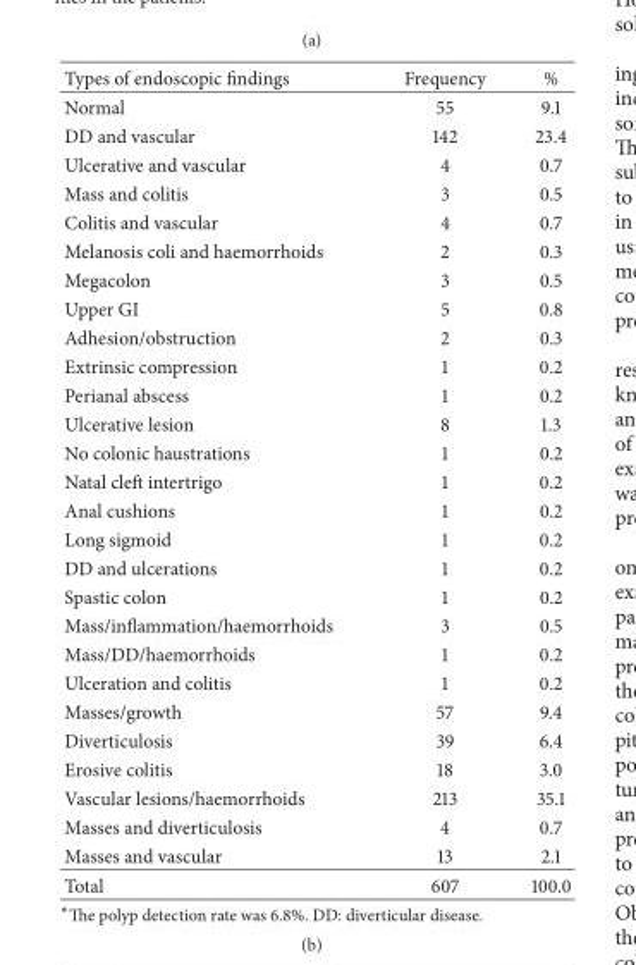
<table><thead><tr><td>Types of endoscopic findings</td><td>Frequency</td><td>%</td></tr></thead><tbody><tr><td>Normal</td><td>55</td><td>9.1</td></tr><tr><td>DD and vascular</td><td>142</td><td>23.4</td></tr><tr><td>Ulcerative and vascular</td><td>4</td><td>0.7</td></tr><tr><td>Mass and colitis</td><td>3</td><td>0.5</td></tr><tr><td>Colitis and vascular</td><td>4</td><td>0.7</td></tr><tr><td>Melanosis coli and haemorrhoids</td><td>2</td><td>0.3</td></tr><tr><td>Megacolon</td><td>3</td><td>0.5</td></tr><tr><td>Upper GI</td><td>5</td><td>0.8</td></tr><tr><td>Adhesion/obstruction</td><td>2</td><td>0.3</td></tr><tr><td>Extrinsic compression</td><td>1</td><td>0.2</td></tr><tr><td>Perianal abscess</td><td>1</td><td>0.2</td></tr><tr><td>Ulcerative lesion</td><td>8</td><td>1.3</td></tr><tr><td>No colonic haustrations</td><td>1</td><td>0.2</td></tr><tr><td>Natal cleft intertrigo</td><td>1</td><td>0.2</td></tr><tr><td>Anal cushions</td><td>1</td><td>0.2</td></tr><tr><td>Long sigmoid</td><td>1</td><td>0.2</td></tr><tr><td>DD and ulcerations</td><td>1</td><td>0.2</td></tr><tr><td>Spastic colon</td><td>1</td><td>0.2</td></tr><tr><td>Mass/inflammation/haemorrhoids</td><td>3</td><td>0.5</td></tr><tr><td>Mass/DD/haemorrhoids</td><td>1</td><td>0.2</td></tr><tr><td>Ulceration and colitis</td><td>1</td><td>0.2</td></tr><tr><td>Masses/growth</td><td>57</td><td>9.4</td></tr><tr><td>Diverticulosis</td><td>39</td><td>6.4</td></tr><tr><td>Erosive colitis</td><td>18</td><td>3.0</td></tr><tr><td>Vascular lesions/haemorrhoids</td><td>213</td><td>35.1</td></tr><tr><td>Masses and diverticulosis</td><td>4</td><td>0.7</td></tr><tr><td>Masses and vascular</td><td>13</td><td>2.1</td></tr><tr><td>Total</td><td>607</td><td>100.0</td></tr></tbody></table>